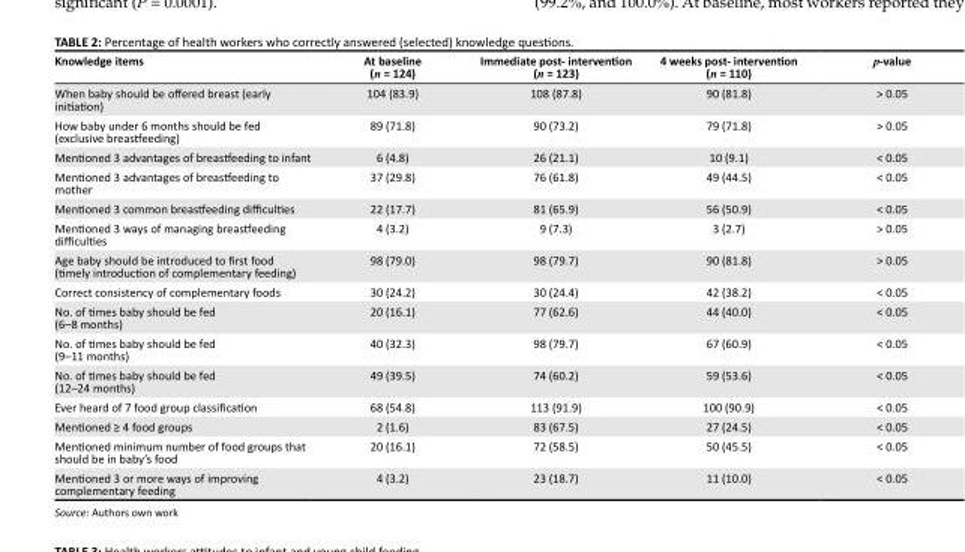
<table><thead><tr><td>Knowledge items</td><td>At baseline (n = 124)</td><td>Immediate post- intervention (n = 123)</td><td>4 weeks post- intervention (n = 110)</td><td>p-value</td></tr></thead><tbody><tr><td>When baby should be offered breast (early initiation)</td><td>104 (83.9)</td><td>108 (87.8)</td><td>90 (81.8)</td><td>&gt; 0.05</td></tr><tr><td>How baby under 6 months should be fed (exclusive breastfeeding)</td><td>89 (71.8)</td><td>90 (73.2)</td><td>79 (71.8)</td><td>&gt; 0.05</td></tr><tr><td>Mentioned 3 advantages of breastfeeding to infant</td><td>6 (4.8)</td><td>26 (21.1)</td><td>10 (9.1)</td><td>&lt; 0.05</td></tr><tr><td>Mentioned 3 advantages of breastfeeding to mother</td><td>37 (29.8)</td><td>76 (61.8)</td><td>49 (44.5)</td><td>&lt; 0.05</td></tr><tr><td>Mentioned 3 common breastfeeding difficulties</td><td>22 (17.7)</td><td>81 (65.9)</td><td>56 (50.9)</td><td>&lt; 0.05</td></tr><tr><td>Mentioned 3 ways of managing breastfeeding difficulties</td><td>4 (3.2)</td><td>9 (7.3)</td><td>3 (2.7)</td><td>&gt; 0.05</td></tr><tr><td>Age baby should be introduced to first food (timely introduction of complementary feeding)</td><td>98 (79.0)</td><td>98 (79.7)</td><td>90 (81.8)</td><td>&gt; 0.05</td></tr><tr><td>Correct consistency of complementary foods</td><td>30 (24.2)</td><td>30 (24.4)</td><td>42 (38.2)</td><td>&lt; 0.05</td></tr><tr><td>No. of times baby should be fed (6–8 months)</td><td>20 (16.1)</td><td>77 (62.6)</td><td>44 (40.0)</td><td>&lt; 0.05</td></tr><tr><td>No. of times baby should be fed (9–11 months)</td><td>40 (32.3)</td><td>98 (79.7)</td><td>67 (60.9)</td><td>&lt; 0.05</td></tr><tr><td>No. of times baby should be fed (12–24 months)</td><td>49 (39.5)</td><td>74 (60.2)</td><td>59 (53.6)</td><td>&lt; 0.05</td></tr><tr><td>Ever heard of 7 food group classification</td><td>68 (54.8)</td><td>113 (91.9)</td><td>100 (90.9)</td><td>&lt; 0.05</td></tr><tr><td>Mentioned ≥ 4 food groups</td><td>2 (1.6)</td><td>83 (67.5)</td><td>27 (24.5)</td><td>&lt; 0.05</td></tr><tr><td>Mentioned minimum number of food groups that should be in baby’s food</td><td>20 (16.1)</td><td>72 (58.5)</td><td>50 (45.5)</td><td>&lt; 0.05</td></tr><tr><td>Mentioned 3 or more ways of improving complementary feeding</td><td>4 (3.2)</td><td>23 (18.7)</td><td>11 (10.0)</td><td>&lt; 0.05</td></tr></tbody></table>